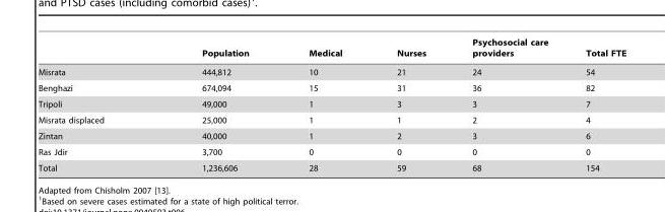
<table><thead><tr><td></td><td>Population</td><td>Medical</td><td>Nurses</td><td>Psychosocial care providers</td><td>Total FTE</td></tr></thead><tbody><tr><td>Misrata</td><td>444,812</td><td>10</td><td>21</td><td>24</td><td>54</td></tr><tr><td>Benghazi</td><td>674,094</td><td>15</td><td>31</td><td>36</td><td>82</td></tr><tr><td>Tripoli</td><td>49,000</td><td>1</td><td>3</td><td>3</td><td>7</td></tr><tr><td>Misrata displaced</td><td>25,000</td><td>1</td><td>1</td><td>2</td><td>4</td></tr><tr><td>Zintan</td><td>40,000</td><td>1</td><td>2</td><td>3</td><td>6</td></tr><tr><td>Ras Jdir</td><td>3,700</td><td>0</td><td>0</td><td>0</td><td>0</td></tr><tr><td>Total</td><td>1,236,606</td><td>28</td><td>59</td><td>68</td><td>154</td></tr></tbody></table>